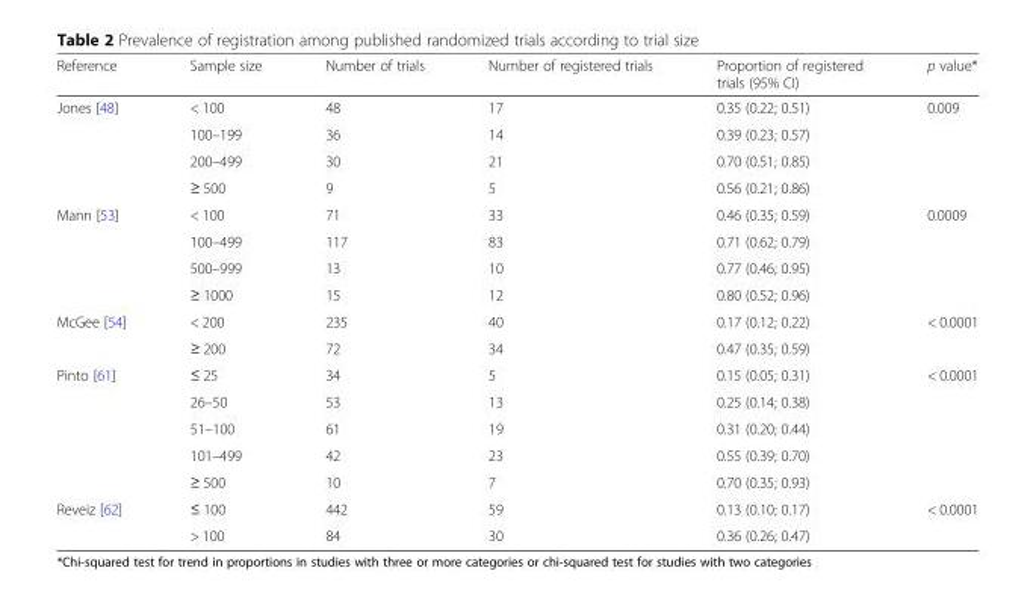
<table><thead><tr><td>Reference</td><td>Sample size</td><td>Number of trials</td><td>Number of registered trials</td><td>Proportion of registered trials (95% CI)</td><td>p value*</td></tr></thead><tbody><tr><td rowspan="4">Jones [48]</td><td>&lt; 100</td><td>48</td><td>17</td><td>0.35 (0.22; 0.51)</td><td rowspan="4">0.009</td></tr><tr><td>100–199</td><td>36</td><td>14</td><td>0.39 (0.23; 0.57)</td></tr><tr><td>200–499</td><td>30</td><td>21</td><td>0.70 (0.51; 0.85)</td></tr><tr><td>≥ 500</td><td>9</td><td>5</td><td>0.56 (0.21; 0.86)</td></tr><tr><td rowspan="4">Mann [53]</td><td>&lt; 100</td><td>71</td><td>33</td><td>0.46 (0.35; 0.59)</td><td rowspan="4">0.0009</td></tr><tr><td>100–499</td><td>117</td><td>83</td><td>0.71 (0.62; 0.79)</td></tr><tr><td>500–999</td><td>13</td><td>10</td><td>0.77 (0.46; 0.95)</td></tr><tr><td>≥ 1000</td><td>15</td><td>12</td><td>0.80 (0.52; 0.96)</td></tr><tr><td rowspan="2">McGee [54]</td><td>&lt; 200</td><td>235</td><td>40</td><td>0.17 (0.12; 0.22)</td><td rowspan="2">&lt; 0.0001</td></tr><tr><td>≥ 200</td><td>72</td><td>34</td><td>0.47 (0.35; 0.59)</td></tr><tr><td rowspan="5">Pinto [61]</td><td>≤ 25</td><td>34</td><td>5</td><td>0.15 (0.05; 0.31)</td><td rowspan="5">&lt; 0.0001</td></tr><tr><td>26–50</td><td>53</td><td>13</td><td>0.25 (0.14; 0.38)</td></tr><tr><td>51–100</td><td>61</td><td>19</td><td>0.31 (0.20; 0.44)</td></tr><tr><td>101–499</td><td>42</td><td>23</td><td>0.55 (0.39; 0.70)</td></tr><tr><td>≥ 500</td><td>10</td><td>7</td><td>0.70 (0.35; 0.93)</td></tr><tr><td rowspan="2">Reveiz [62]</td><td>≤ 100</td><td>442</td><td>59</td><td>0.13 (0.10; 0.17)</td><td rowspan="2">&lt; 0.0001</td></tr><tr><td>&gt; 100</td><td>84</td><td>30</td><td>0.36 (0.26; 0.47)</td></tr></tbody></table>